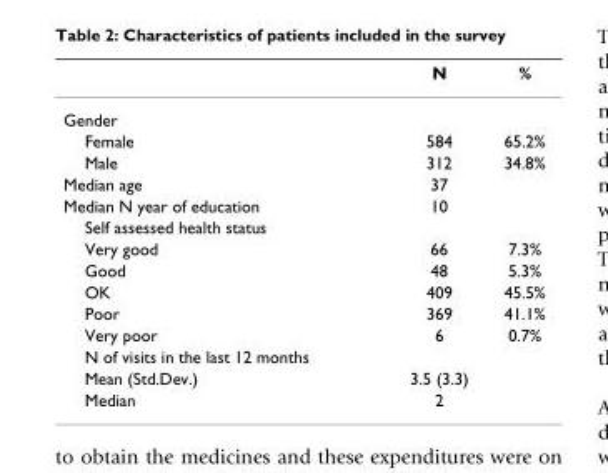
<table><thead><tr><td></td><td>N</td><td>%</td></tr></thead><tbody><tr><td colspan="3">Gender</td></tr><tr><td>Female</td><td>584</td><td>65.2%</td></tr><tr><td>Male</td><td>312</td><td>34.8%</td></tr><tr><td>Median age</td><td>37</td><td></td></tr><tr><td>Median N year of education</td><td>10</td><td></td></tr><tr><td colspan="3">Self assessed health status</td></tr><tr><td>Very good</td><td>66</td><td>7.3%</td></tr><tr><td>Good</td><td>48</td><td>5.3%</td></tr><tr><td>OK</td><td>409</td><td>45.5%</td></tr><tr><td>Poor</td><td>369</td><td>41.1%</td></tr><tr><td>Very poor</td><td>6</td><td>0.7%</td></tr><tr><td colspan="3">N of visits in the last 12 months</td></tr><tr><td>Mean (Std.Dev.)</td><td>3.5 (3.3)</td><td></td></tr><tr><td>Median</td><td>2</td><td></td></tr></tbody></table>